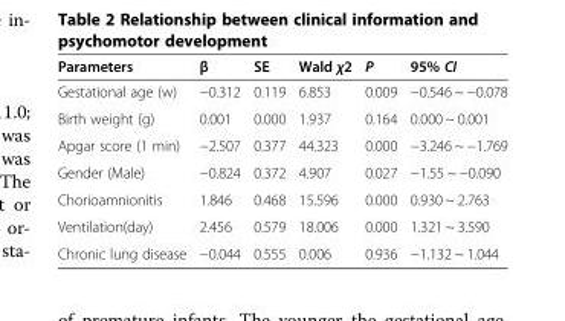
<table><thead><tr><td>Parameters</td><td>β</td><td>SE</td><td>Wald χ2</td><td>P</td><td>95% CI</td></tr></thead><tbody><tr><td>Gestational age (w)</td><td>−0.312</td><td>0.119</td><td>6.853</td><td>0.009</td><td>−0.546 ~ −0.078</td></tr><tr><td>Birth weight (g)</td><td>0.001</td><td>0.000</td><td>1.937</td><td>0.164</td><td>0.000 ~ 0.001</td></tr><tr><td>Apgar score (1 min)</td><td>−2.507</td><td>0.377</td><td>44.323</td><td>0.000</td><td>−3.246 ~ −1.769</td></tr><tr><td>Gender (Male)</td><td>−0.824</td><td>0.372</td><td>4.907</td><td>0.027</td><td>−1.55 ~ −0.090</td></tr><tr><td>Chorioamnionitis</td><td>1.846</td><td>0.468</td><td>15.596</td><td>0.000</td><td>0.930 ~ 2.763</td></tr><tr><td>Ventilation(day)</td><td>2.456</td><td>0.579</td><td>18.006</td><td>0.000</td><td>1.321 ~ 3.590</td></tr><tr><td>Chronic lung disease</td><td>−0.044</td><td>0.555</td><td>0.006</td><td>0.936</td><td>−1.132 ~ 1.044</td></tr></tbody></table>